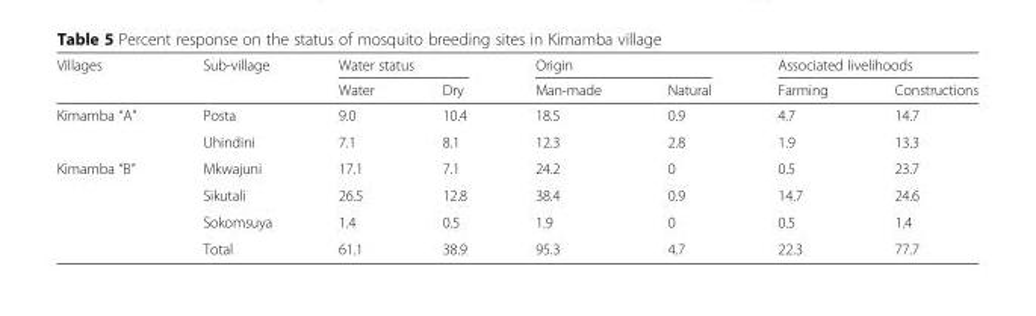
<table><thead><tr><td rowspan="2">Villages</td><td rowspan="2">Sub-village</td><td colspan="2">Water status</td><td colspan="2">Origin</td><td colspan="2">Associated livelihoods</td></tr><tr><td>Water</td><td>Dry</td><td>Man-made</td><td>Natural</td><td>Farming</td><td>Constructions</td></tr></thead><tbody><tr><td rowspan="2">Kimamba “A”</td><td>Posta</td><td>9.0</td><td>10.4</td><td>18.5</td><td>0.9</td><td>4.7</td><td>14.7</td></tr><tr><td>Uhindini</td><td>7.1</td><td>8.1</td><td>12.3</td><td>2.8</td><td>1.9</td><td>13.3</td></tr><tr><td rowspan="4">Kimamba “B”</td><td>Mkwajuni</td><td>17.1</td><td>7.1</td><td>24.2</td><td>0</td><td>0.5</td><td>23.7</td></tr><tr><td>Sikutali</td><td>26.5</td><td>12.8</td><td>38.4</td><td>0.9</td><td>14.7</td><td>24.6</td></tr><tr><td>Sokomsuya</td><td>1.4</td><td>0.5</td><td>1.9</td><td>0</td><td>0.5</td><td>1.4</td></tr><tr><td>Total</td><td>61.1</td><td>38.9</td><td>95.3</td><td>4.7</td><td>22.3</td><td>77.7</td></tr></tbody></table>